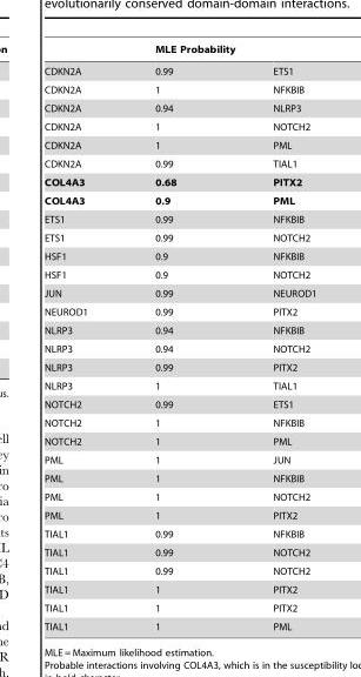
<table><thead><tr><td></td><td>MLE Probability</td><td></td></tr></thead><tbody><tr><td>CDKN2A</td><td>0.99</td><td>ETS1</td></tr><tr><td>CDKN2A</td><td>1</td><td>NFKBIB</td></tr><tr><td>CDKN2A</td><td>0.94</td><td>NLRP3</td></tr><tr><td>CDKN2A</td><td>1</td><td>NOTCH2</td></tr><tr><td>CDKN2A</td><td>1</td><td>PML</td></tr><tr><td>CDKN2A</td><td>0.99</td><td>TIAL1</td></tr><tr><td>COL4A3</td><td>0.68</td><td>PITX2</td></tr><tr><td>COL4A3</td><td>0.9</td><td>PML</td></tr><tr><td>ETS1</td><td>0.99</td><td>NFKBIB</td></tr><tr><td>ETS1</td><td>0.99</td><td>NOTCH2</td></tr><tr><td>HSF1</td><td>0.9</td><td>NFKBIB</td></tr><tr><td>HSF1</td><td>0.9</td><td>NOTCH2</td></tr><tr><td>JUN</td><td>0.99</td><td>NEUROD1</td></tr><tr><td>NEUROD1</td><td>0.99</td><td>PITX2</td></tr><tr><td>NLRP3</td><td>0.94</td><td>NFKBIB</td></tr><tr><td>NLRP3</td><td>0.94</td><td>NOTCH2</td></tr><tr><td>NLRP3</td><td>0.99</td><td>PITX2</td></tr><tr><td>NLRP3</td><td>1</td><td>TIAL1</td></tr><tr><td>NOTCH2</td><td>0.99</td><td>ETS1</td></tr><tr><td>NOTCH2</td><td>1</td><td>NFKBIB</td></tr><tr><td>NOTCH2</td><td>1</td><td>PML</td></tr><tr><td>PML</td><td>1</td><td>JUN</td></tr><tr><td>PML</td><td>1</td><td>NFKBIB</td></tr><tr><td>PML</td><td>1</td><td>NOTCH2</td></tr><tr><td>PML</td><td>1</td><td>PITX2</td></tr><tr><td>TIAL1</td><td>0.99</td><td>NFKBIB</td></tr><tr><td>TIAL1</td><td>0.99</td><td>NOTCH2</td></tr><tr><td>TIAL1</td><td>0.99</td><td>NOTCH2</td></tr><tr><td>TIAL1</td><td>1</td><td>PITX2</td></tr><tr><td>TIAL1</td><td>1</td><td>PITX2</td></tr><tr><td>TIAL1</td><td>1</td><td>PML</td></tr></tbody></table>